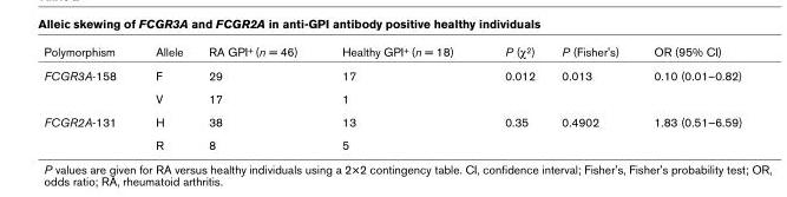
<table><thead><tr><td>Polymorphism</td><td>Allele</td><td>RA GPI+ (n = 46)</td><td>Healthy GPI+ (n = 18)</td><td>P (χ2)</td><td>P (Fisher&#x27;s)</td><td>OR (95% CI)</td></tr></thead><tbody><tr><td rowspan="2">FCGR3A-158</td><td>F</td><td>29</td><td>17</td><td>0.012</td><td>0.013</td><td>0.10 (0.01–0.82)</td></tr><tr><td>V</td><td>17</td><td>1</td><td></td><td></td><td></td></tr><tr><td rowspan="2">FCGR2A-131</td><td>H</td><td>38</td><td>13</td><td>0.35</td><td>0.4902</td><td>1.83 (0.51–6.59)</td></tr><tr><td>R</td><td>8</td><td>5</td><td></td><td></td><td></td></tr></tbody></table>